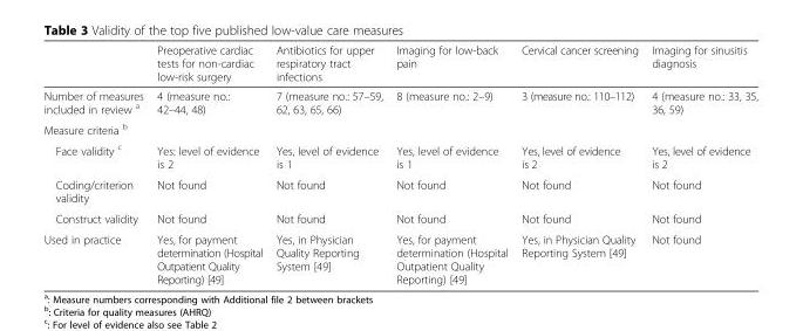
<table><thead><tr><td></td><td>Preoperative cardiac tests for non-cardiac low-risk surgery</td><td>Antibiotics for upper respiratory tract infections</td><td>Imaging for low-back pain</td><td>Cervical cancer screening</td><td>Imaging for sinusitis diagnosis</td></tr></thead><tbody><tr><td>Number of measures included in review <sup>a</sup></td><td>4 (measure no.: 42–44, 48)</td><td>7 (measure no.: 57–59, 62, 63, 65, 66)</td><td>8 (measure no.: 2–9)</td><td>3 (measure no.: 110–112)</td><td>4 (measure no.: 33, 35, 36, 59)</td></tr><tr><td colspan="6">Measure criteria <sup>b</sup></td></tr><tr><td>Face validity <sup>c</sup></td><td>Yes: level of evidence is 2</td><td>Yes, level of evidence is 1</td><td>Yes, level of evidence is 1</td><td>Yes, level of evidence is 2</td><td>Yes, level of evidence is 2</td></tr><tr><td>Coding/criterion validity</td><td>Not found</td><td>Not found</td><td>Not found</td><td>Not found</td><td>Not found</td></tr><tr><td>Construct validity</td><td>Not found</td><td>Not found</td><td>Not found</td><td>Not found</td><td>Not found</td></tr><tr><td>Used in practice</td><td>Yes, for payment determination (Hospital Outpatient Quality Reporting) [49]</td><td>Yes, in Physician Quality Reporting System [49]</td><td>Yes, for payment determination (Hospital Outpatient Quality Reporting) [49]</td><td>Yes, in Physician Quality Reporting System [49]</td><td>Not found</td></tr></tbody></table>